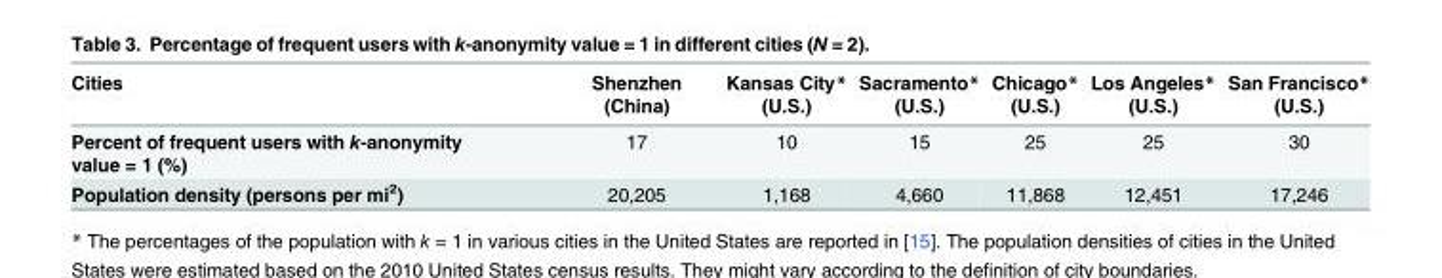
<table><thead><tr><td>Cities</td><td>Shenzhen (China)</td><td>Kansas City* (U.S.)</td><td>Sacramento* (U.S.)</td><td>Chicago* (U.S.)</td><td>Los Angeles* (U.S.)</td><td>San Francisco* (U.S.)</td></tr></thead><tbody><tr><td>Percent of frequent users with k-anonymity value = 1 (%)</td><td>17</td><td>10</td><td>15</td><td>25</td><td>25</td><td>30</td></tr><tr><td>Population density (persons per mi<sup>2</sup>)</td><td>20,205</td><td>1,168</td><td>4,660</td><td>11,868</td><td>12,451</td><td>17,246</td></tr></tbody></table>